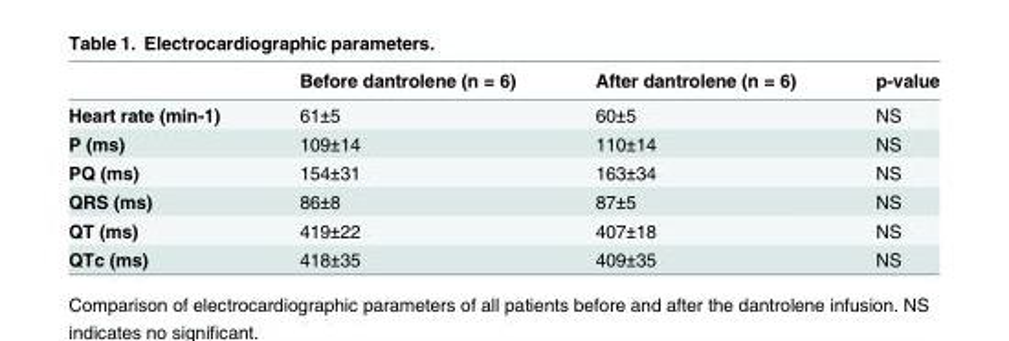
<table><thead><tr><td></td><td>Before dantrolene (n = 6)</td><td>After dantrolene (n = 6)</td><td>p-value</td></tr></thead><tbody><tr><td>Heart rate (min-1)</td><td>61±5</td><td>60±5</td><td>NS</td></tr><tr><td>P (ms)</td><td>109±14</td><td>110±14</td><td>NS</td></tr><tr><td>PQ (ms)</td><td>154±31</td><td>163±34</td><td>NS</td></tr><tr><td>QRS (ms)</td><td>86±8</td><td>87±5</td><td>NS</td></tr><tr><td>QT (ms)</td><td>419±22</td><td>407±18</td><td>NS</td></tr><tr><td>QTc (ms)</td><td>418±35</td><td>409±35</td><td>NS</td></tr></tbody></table>